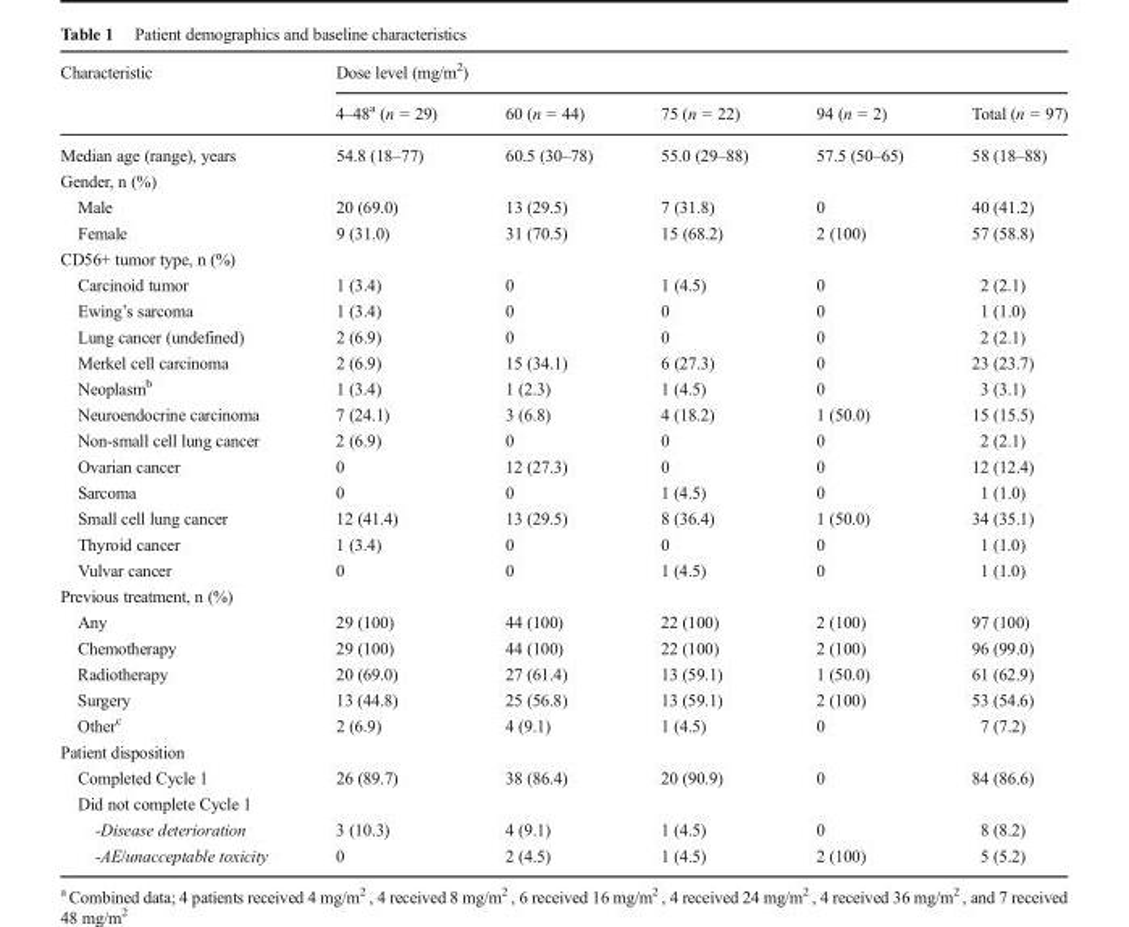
<table><thead><tr><td rowspan="2">Characteristic</td><td colspan="5">Dose level (mg/m<sup>2</sup>)</td></tr><tr><td>4–48<sup>a</sup> (n = 29)</td><td>60 (n = 44)</td><td>75 (n = 22)</td><td>94 (n = 2)</td><td>Total (n = 97)</td></tr></thead><tbody><tr><td>Median age (range), years</td><td>54.8 (18–77)</td><td>60.5 (30–78)</td><td>55.0 (29–88)</td><td>57.5 (50–65)</td><td>58 (18–88)</td></tr><tr><td colspan="6">Gender, n (%)</td></tr><tr><td>Male</td><td>20 (69.0)</td><td>13 (29.5)</td><td>7 (31.8)</td><td>0</td><td>40 (41.2)</td></tr><tr><td>Female</td><td>9 (31.0)</td><td>31 (70.5)</td><td>15 (68.2)</td><td>2 (100)</td><td>57 (58.8)</td></tr><tr><td colspan="6">CD56+ tumor type, n (%)</td></tr><tr><td>Carcinoid tumor</td><td>1 (3.4)</td><td>0</td><td>1 (4.5)</td><td>0</td><td>2 (2.1)</td></tr><tr><td>Ewing’s sarcoma</td><td>1 (3.4)</td><td>0</td><td>0</td><td>0</td><td>1 (1.0)</td></tr><tr><td>Lung cancer (undefined)</td><td>2 (6.9)</td><td>0</td><td>0</td><td>0</td><td>2 (2.1)</td></tr><tr><td>Merkel cell carcinoma</td><td>2 (6.9)</td><td>15 (34.1)</td><td>6 (27.3)</td><td>0</td><td>23 (23.7)</td></tr><tr><td>Neoplasm<sup>b</sup></td><td>1 (3.4)</td><td>1 (2.3)</td><td>1 (4.5)</td><td>0</td><td>3 (3.1)</td></tr><tr><td>Neuroendocrine carcinoma</td><td>7 (24.1)</td><td>3 (6.8)</td><td>4 (18.2)</td><td>1 (50.0)</td><td>15 (15.5)</td></tr><tr><td>Non-small cell lung cancer</td><td>2 (6.9)</td><td>0</td><td>0</td><td>0</td><td>2 (2.1)</td></tr><tr><td>Ovarian cancer</td><td>0</td><td>12 (27.3)</td><td>0</td><td>0</td><td>12 (12.4)</td></tr><tr><td>Sarcoma</td><td>0</td><td>0</td><td>1 (4.5)</td><td>0</td><td>1 (1.0)</td></tr><tr><td>Small cell lung cancer</td><td>12 (41.4)</td><td>13 (29.5)</td><td>8 (36.4)</td><td>1 (50.0)</td><td>34 (35.1)</td></tr><tr><td>Thyroid cancer</td><td>1 (3.4)</td><td>0</td><td>0</td><td>0</td><td>1 (1.0)</td></tr><tr><td>Vulvar cancer</td><td>0</td><td>0</td><td>1 (4.5)</td><td>0</td><td>1 (1.0)</td></tr><tr><td colspan="6">Previous treatment, n (%)</td></tr><tr><td>Any</td><td>29 (100)</td><td>44 (100)</td><td>22 (100)</td><td>2 (100)</td><td>97 (100)</td></tr><tr><td>Chemotherapy</td><td>29 (100)</td><td>44 (100)</td><td>22 (100)</td><td>2 (100)</td><td>96 (99.0)</td></tr><tr><td>Radiotherapy</td><td>20 (69.0)</td><td>27 (61.4)</td><td>13 (59.1)</td><td>1 (50.0)</td><td>61 (62.9)</td></tr><tr><td>Surgery</td><td>13 (44.8)</td><td>25 (56.8)</td><td>13 (59.1)</td><td>2 (100)</td><td>53 (54.6)</td></tr><tr><td>Other<sup>c</sup></td><td>2 (6.9)</td><td>4 (9.1)</td><td>1 (4.5)</td><td>0</td><td>7 (7.2)</td></tr><tr><td colspan="6">Patient disposition</td></tr><tr><td>Completed Cycle 1</td><td>26 (89.7)</td><td>38 (86.4)</td><td>20 (90.9)</td><td>0</td><td>84 (86.6)</td></tr><tr><td colspan="6">Did not complete Cycle 1</td></tr><tr><td>-Disease deterioration</td><td>3 (10.3)</td><td>4 (9.1)</td><td>1 (4.5)</td><td>0</td><td>8 (8.2)</td></tr><tr><td>-AE/unacceptable toxicity</td><td>0</td><td>2 (4.5)</td><td>1 (4.5)</td><td>2 (100)</td><td>5 (5.2)</td></tr></tbody></table>